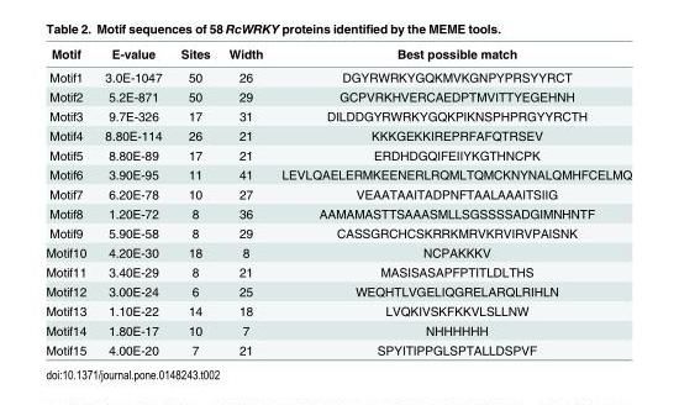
<table><thead><tr><td>Motif</td><td>E-value</td><td>Sites</td><td>Width</td><td>Best possible match</td></tr></thead><tbody><tr><td>Motif1</td><td>3.0E-1047</td><td>50</td><td>26</td><td>DGYRWRKYGQKMVKGNPYPRSYYRCT</td></tr><tr><td>Motif2</td><td>5.2E-871</td><td>50</td><td>29</td><td>GCPVRKHVERCAEDPTMVITTYEGEHNH</td></tr><tr><td>Motif3</td><td>9.7E-326</td><td>17</td><td>31</td><td>DILDDGYRWRKYGQKPIKNSPHPRGYYRCTH</td></tr><tr><td>Motif4</td><td>8.80E-114</td><td>26</td><td>21</td><td>KKKGEKKIREPRFAFQTRSEV</td></tr><tr><td>Motif5</td><td>8.80E-89</td><td>17</td><td>21</td><td>ERDHDGQIFEIIYKGTHNCPK</td></tr><tr><td>Motif6</td><td>3.90E-95</td><td>11</td><td>41</td><td>LEVLQAELERMKEENERLRQMLTQMCKNYNALQMHFCELMQ</td></tr><tr><td>Motif7</td><td>6.20E-78</td><td>10</td><td>27</td><td>VEAATAAITADPNFTAALAAAITSIIG</td></tr><tr><td>Motif8</td><td>1.20E-72</td><td>8</td><td>36</td><td>AAMAMASTTSAAASMLLSGSSSSADGIMNHNTF</td></tr><tr><td>Motif9</td><td>5.90E-58</td><td>8</td><td>29</td><td>CASSGRCHCSKRRKMRVKRVIRVPAISNK</td></tr><tr><td>Motif10</td><td>4.20E-30</td><td>18</td><td>8</td><td>NCPAKKKV</td></tr><tr><td>Motif11</td><td>3.40E-29</td><td>8</td><td>21</td><td>MASISASAPFPTITLDLTHS</td></tr><tr><td>Motif12</td><td>3.00E-24</td><td>6</td><td>25</td><td>WEQHTLVGELIQGRELARQLRIHLN</td></tr><tr><td>Motif13</td><td>1.10E-22</td><td>14</td><td>18</td><td>LVQKIVSKFKKVLSLLNW</td></tr><tr><td>Motif14</td><td>1.80E-17</td><td>10</td><td>7</td><td>NHHHHHH</td></tr><tr><td>Motif15</td><td>4.00E-20</td><td>7</td><td>21</td><td>SPYITIPPGLSPTALLDSPVF</td></tr></tbody></table>